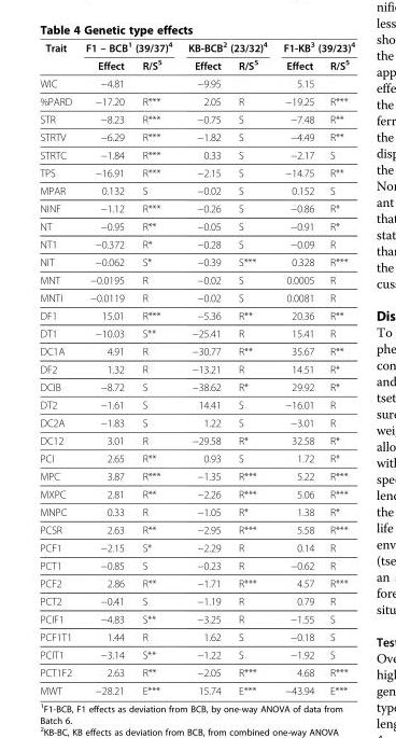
<table><thead><tr><td rowspan="2">Trait</td><td colspan="2">F1 – BCB<sup>1</sup> (39/37)<sup>4</sup></td><td colspan="2">KB-BCB<sup>2</sup> (23/32)<sup>4</sup></td><td colspan="2">F1-KB<sup>3</sup> (39/23)<sup>4</sup></td></tr><tr><td>Effect</td><td>R/S<sup>5</sup></td><td>Effect</td><td>R/S<sup>5</sup></td><td>Effect</td><td>R/S<sup>5</sup></td></tr></thead><tbody><tr><td>WIC</td><td>−4.81</td><td></td><td>−9.95</td><td></td><td>5.15</td><td></td></tr><tr><td>%PARD</td><td>−17.20</td><td>R***</td><td>2.05</td><td>R</td><td>−19.25</td><td>R***</td></tr><tr><td>STR</td><td>−8.23</td><td>R***</td><td>−0.75</td><td>S</td><td>−7.48</td><td>R**</td></tr><tr><td>STRTV</td><td>−6.29</td><td>R***</td><td>−1.82</td><td>S</td><td>−4.49</td><td>R**</td></tr><tr><td>STRTC</td><td>−1.84</td><td>R***</td><td>0.33</td><td>S</td><td>−2.17</td><td>S</td></tr><tr><td>TPS</td><td>−16.91</td><td>R***</td><td>−2.15</td><td>S</td><td>−14.75</td><td>R**</td></tr><tr><td>MPAR</td><td>0.132</td><td>S</td><td>−0.02</td><td>S</td><td>0.152</td><td>S</td></tr><tr><td>NINF</td><td>−1.12</td><td>R***</td><td>−0.26</td><td>S</td><td>−0.86</td><td>R*</td></tr><tr><td>NT</td><td>−0.95</td><td>R**</td><td>−0.05</td><td>S</td><td>−0.91</td><td>R*</td></tr><tr><td>NT1</td><td>−0.372</td><td>R*</td><td>−0.28</td><td>S</td><td>−0.09</td><td>R</td></tr><tr><td>NIT</td><td>−0.062</td><td>S*</td><td>−0.39</td><td>S***</td><td>0.328</td><td>R***</td></tr><tr><td>MNT</td><td>−0.0195</td><td>R</td><td>−0.02</td><td>S</td><td>0.0005</td><td>R</td></tr><tr><td>MNTI</td><td>−0.0119</td><td>R</td><td>−0.02</td><td>S</td><td>0.0081</td><td>R</td></tr><tr><td>DF1</td><td>15.01</td><td>R***</td><td>−5.36</td><td>R**</td><td>20.36</td><td>R**</td></tr><tr><td>DT1</td><td>−10.03</td><td>S**</td><td>−25.41</td><td>R</td><td>15.41</td><td>R</td></tr><tr><td>DC1A</td><td>4.91</td><td>R</td><td>−30.77</td><td>R**</td><td>35.67</td><td>R**</td></tr><tr><td>DF2</td><td>1.32</td><td>R</td><td>−13.21</td><td>R</td><td>14.51</td><td>R*</td></tr><tr><td>DCIB</td><td>−8.72</td><td>S</td><td>−38.62</td><td>R*</td><td>29.92</td><td>R*</td></tr><tr><td>DT2</td><td>−1.61</td><td>S</td><td>14.41</td><td>S</td><td>−16.01</td><td>R</td></tr><tr><td>DC2A</td><td>−1.83</td><td>S</td><td>1.22</td><td>S</td><td>−3.01</td><td>R</td></tr><tr><td>DC12</td><td>3.01</td><td>R</td><td>−29.58</td><td>R*</td><td>32.58</td><td>R*</td></tr><tr><td>PCI</td><td>2.65</td><td>R**</td><td>0.93</td><td>S</td><td>1.72</td><td>R*</td></tr><tr><td>MPC</td><td>3.87</td><td>R***</td><td>−1.35</td><td>R***</td><td>5.22</td><td>R***</td></tr><tr><td>MXPC</td><td>2.81</td><td>R**</td><td>−2.26</td><td>R***</td><td>5.06</td><td>R***</td></tr><tr><td>MNPC</td><td>0.33</td><td>R</td><td>−1.05</td><td>R*</td><td>1.38</td><td>R*</td></tr><tr><td>PCSR</td><td>2.63</td><td>R**</td><td>−2.95</td><td>R***</td><td>5.58</td><td>R***</td></tr><tr><td>PCF1</td><td>−2.15</td><td>S*</td><td>−2.29</td><td>R</td><td>0.14</td><td>R</td></tr><tr><td>PCT1</td><td>−0.85</td><td>S</td><td>−0.23</td><td>R</td><td>−0.62</td><td>R</td></tr><tr><td>PCF2</td><td>2.86</td><td>R**</td><td>−1.71</td><td>R***</td><td>4.57</td><td>R***</td></tr><tr><td>PCT2</td><td>−0.41</td><td>S</td><td>−1.19</td><td>R</td><td>0.79</td><td>R</td></tr><tr><td>PCIF1</td><td>−4.83</td><td>S**</td><td>−3.25</td><td>R</td><td>−1.55</td><td>S</td></tr><tr><td>PCF1T1</td><td>1.44</td><td>R</td><td>1.62</td><td>S</td><td>−0.18</td><td>S</td></tr><tr><td>PCIT1</td><td>−3.14</td><td>S**</td><td>−1.22</td><td>S</td><td>−1.92</td><td>S</td></tr><tr><td>PCT1F2</td><td>2.63</td><td>R**</td><td>−2.05</td><td>R***</td><td>4.68</td><td>R***</td></tr><tr><td>MWT</td><td>−28.21</td><td>E***</td><td>15.74</td><td>E***</td><td>−43.94</td><td>E***</td></tr></tbody></table>